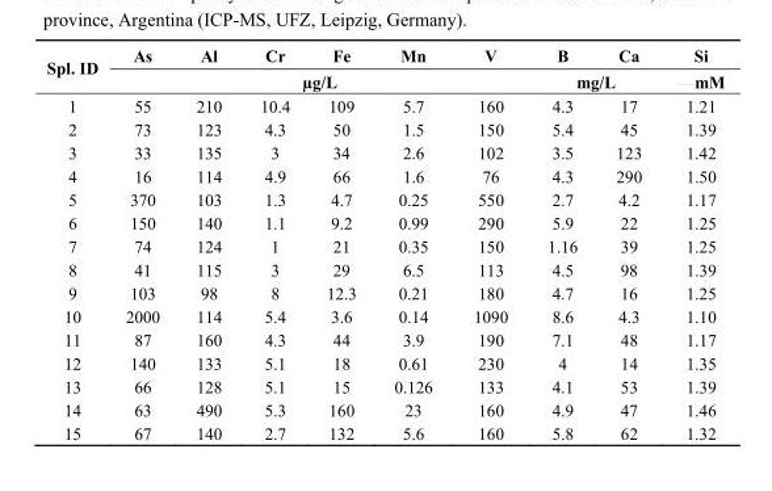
<table><thead><tr><td rowspan="2">Spl. ID</td><td>As</td><td>Al</td><td>Cr</td><td>Fe</td><td>Mn</td><td>V</td><td>B</td><td>Ca</td><td rowspan="2">Si mM</td></tr><tr><td colspan="6">µg/L</td><td colspan="2">mg/L</td></tr></thead><tbody><tr><td>1</td><td>55</td><td>210</td><td>10.4</td><td>109</td><td>5.7</td><td>160</td><td>4.3</td><td>17</td><td>1.21</td></tr><tr><td>2</td><td>73</td><td>123</td><td>4.3</td><td>50</td><td>1.5</td><td>150</td><td>5.4</td><td>45</td><td>1.39</td></tr><tr><td>3</td><td>33</td><td>135</td><td>3</td><td>34</td><td>2.6</td><td>102</td><td>3.5</td><td>123</td><td>1.42</td></tr><tr><td>4</td><td>16</td><td>114</td><td>4.9</td><td>66</td><td>1.6</td><td>76</td><td>4.3</td><td>290</td><td>1.50</td></tr><tr><td>5</td><td>370</td><td>103</td><td>1.3</td><td>4.7</td><td>0.25</td><td>550</td><td>2.7</td><td>4.2</td><td>1.17</td></tr><tr><td>6</td><td>150</td><td>140</td><td>1.1</td><td>9.2</td><td>0.99</td><td>290</td><td>5.9</td><td>22</td><td>1.25</td></tr><tr><td>7</td><td>74</td><td>124</td><td>1</td><td>21</td><td>0.35</td><td>150</td><td>1.16</td><td>39</td><td>1.25</td></tr><tr><td>8</td><td>41</td><td>115</td><td>3</td><td>29</td><td>6.5</td><td>113</td><td>4.5</td><td>98</td><td>1.39</td></tr><tr><td>9</td><td>103</td><td>98</td><td>8</td><td>12.3</td><td>0.21</td><td>180</td><td>4.7</td><td>16</td><td>1.25</td></tr><tr><td>10</td><td>2000</td><td>114</td><td>5.4</td><td>3.6</td><td>0.14</td><td>1090</td><td>8.6</td><td>4.3</td><td>1.10</td></tr><tr><td>11</td><td>87</td><td>160</td><td>4.3</td><td>44</td><td>3.9</td><td>190</td><td>7.1</td><td>48</td><td>1.17</td></tr><tr><td>12</td><td>140</td><td>133</td><td>5.1</td><td>18</td><td>0.61</td><td>230</td><td>4</td><td>14</td><td>1.35</td></tr><tr><td>13</td><td>66</td><td>128</td><td>5.1</td><td>15</td><td>0.126</td><td>133</td><td>4.1</td><td>53</td><td>1.39</td></tr><tr><td>14</td><td>63</td><td>490</td><td>5.3</td><td>160</td><td>23</td><td>160</td><td>4.9</td><td>47</td><td>1.46</td></tr><tr><td>15</td><td>67</td><td>140</td><td>2.7</td><td>132</td><td>5.6</td><td>160</td><td>5.8</td><td>62</td><td>1.32</td></tr></tbody></table>